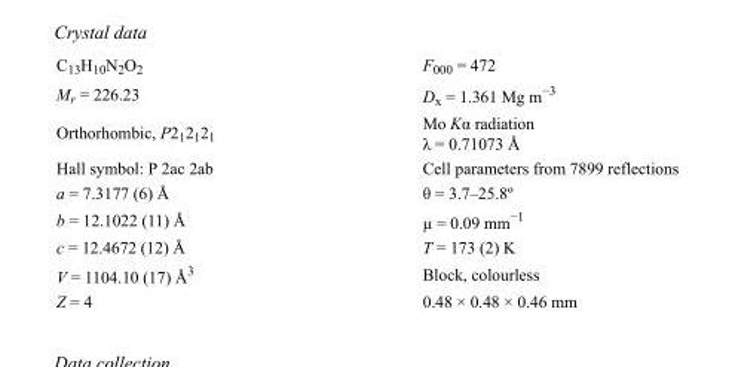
<table><tbody><tr><td>C<sub>13</sub>H<sub>10</sub>N<sub>2</sub>O<sub>2</sub></td><td>F<sub>000</sub> = 472</td></tr><tr><td>M<sub>r</sub> = 226.23</td><td>D<sub>x</sub> = 1.361 Mg m<sup>−3</sup></td></tr><tr><td>Orthorhombic, P2<sub>1</sub>2<sub>1</sub>2<sub>1</sub></td><td>Mo Kα radiation λ = 0.71073 Å</td></tr><tr><td>Hall symbol: P 2ac 2ab</td><td>Cell parameters from 7899 reflections</td></tr><tr><td>a = 7.3177 (6) Å</td><td>θ = 3.7–25.8º</td></tr><tr><td>b = 12.1022 (11) Å</td><td>µ = 0.09 mm<sup>−1</sup></td></tr><tr><td>c = 12.4672 (12) Å</td><td>T = 173 (2) K</td></tr><tr><td>V = 1104.10 (17) Å<sup>3</sup></td><td>Block, colourless</td></tr><tr><td>Z = 4</td><td>0.48 × 0.48 × 0.46 mm</td></tr></tbody></table>